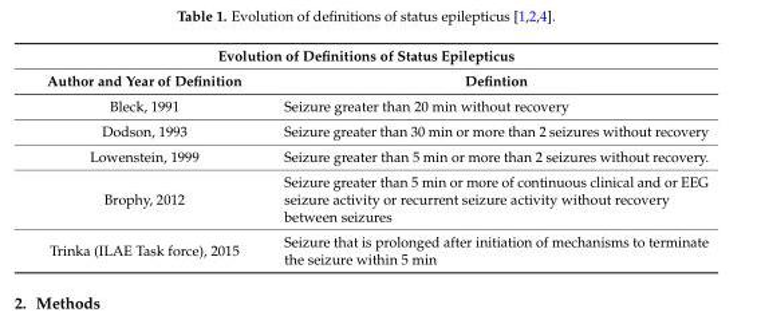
<table><thead><tr><td colspan="2">Evolution of Definitions of Status Epilepticus</td></tr><tr><td>Author and Year of Definition</td><td>Defintion</td></tr></thead><tbody><tr><td>Bleck, 1991</td><td>Seizure greater than 20 min without recovery</td></tr><tr><td>Dodson, 1993</td><td>Seizure greater than 30 min or more than 2 seizures without recovery</td></tr><tr><td>Lowenstein, 1999</td><td>Seizure greater than 5 min or more than 2 seizures without recovery.</td></tr><tr><td>Brophy, 2012</td><td>Seizure greater than 5 min or more of continuous clinical and or EEG seizure activity or recurrent seizure activity without recovery between seizures</td></tr><tr><td>Trinka (ILAE Task force), 2015</td><td>Seizure that is prolonged after initiation of mechanisms to terminate the seizure within 5 min</td></tr></tbody></table>